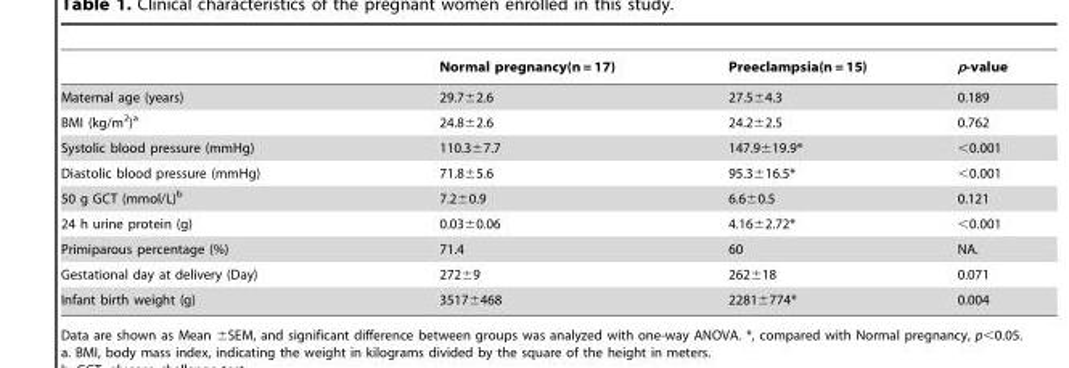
<table><thead><tr><td></td><td>Normal pregnancy(n = 17)</td><td>Preeclampsia(n = 15)</td><td>p-value</td></tr></thead><tbody><tr><td>Maternal age (years)</td><td>29.7±2.6</td><td>27.5±4.3</td><td>0.189</td></tr><tr><td>BMI (kg/m<sup>2</sup>)<sup>a</sup></td><td>24.8±2.6</td><td>24.2±2.5</td><td>0.762</td></tr><tr><td>Systolic blood pressure (mmHg)</td><td>110.3±7.7</td><td>147.9±19.9*</td><td>&lt;0.001</td></tr><tr><td>Diastolic blood pressure (mmHg)</td><td>71.8±5.6</td><td>95.3±16.5*</td><td>&lt;0.001</td></tr><tr><td>50 g GCT (mmol/L)<sup>b</sup></td><td>7.2±0.9</td><td>6.6±0.5</td><td>0.121</td></tr><tr><td>24 h urine protein (g)</td><td>0.03±0.06</td><td>4.16±2.72*</td><td>&lt;0.001</td></tr><tr><td>Primiparous percentage (%)</td><td>71.4</td><td>60</td><td>NA.</td></tr><tr><td>Gestational day at delivery (Day)</td><td>272±9</td><td>262±18</td><td>0.071</td></tr><tr><td>Infant birth weight (g)</td><td>3517±468</td><td>2281±774*</td><td>0.004</td></tr></tbody></table>